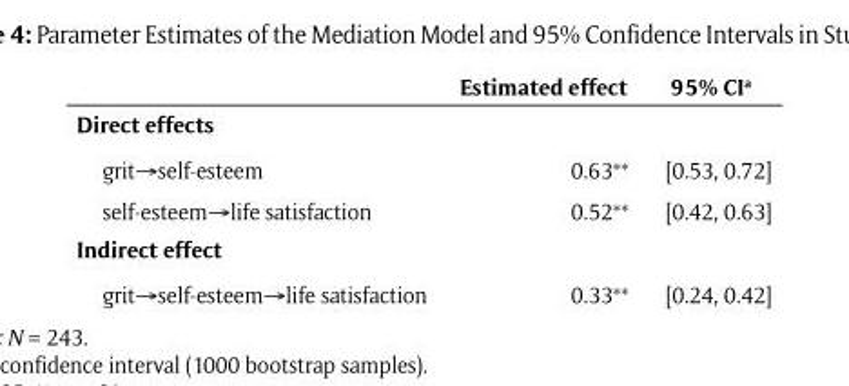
<table><thead><tr><td></td><td>Estimated effect</td><td>95% CI<sup>a</sup></td></tr></thead><tbody><tr><td colspan="3">Direct effects</td></tr><tr><td>grit→self-esteem</td><td>0.63**</td><td>[0.53, 0.72]</td></tr><tr><td>self-esteem→life satisfaction</td><td>0.52**</td><td>[0.42, 0.63]</td></tr><tr><td colspan="3">Indirect effect</td></tr><tr><td>grit→self-esteem→life satisfaction</td><td>0.33**</td><td>[0.24, 0.42]</td></tr></tbody></table>